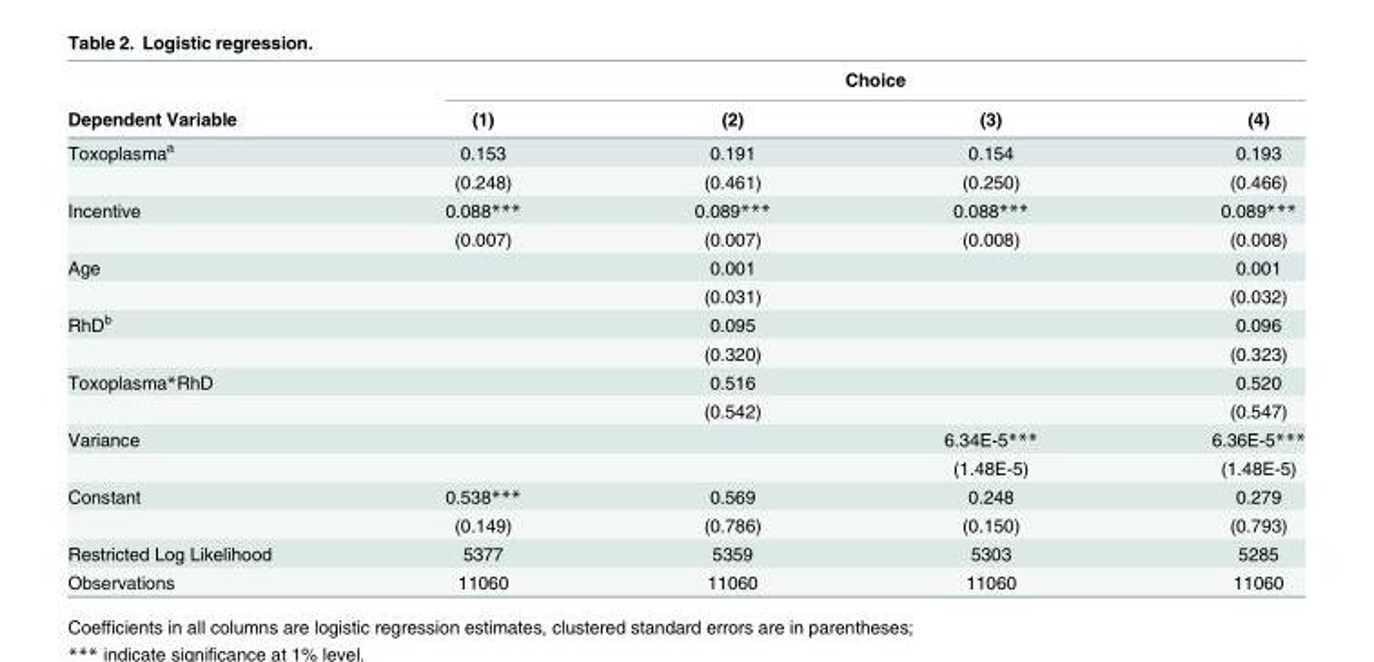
<table><thead><tr><td rowspan="2">Dependent Variable</td><td colspan="4">Choice</td></tr><tr><td>(1)</td><td>(2)</td><td>(3)</td><td>(4)</td></tr></thead><tbody><tr><td rowspan="2">Toxoplasma<sup>a</sup></td><td>0.153</td><td>0.191</td><td>0.154</td><td>0.193</td></tr><tr><td>(0.248)</td><td>(0.461)</td><td>(0.250)</td><td>(0.466)</td></tr><tr><td rowspan="2">Incentive</td><td>0.088***</td><td>0.089***</td><td>0.088***</td><td>0.089***</td></tr><tr><td>(0.007)</td><td>(0.007)</td><td>(0.008)</td><td>(0.008)</td></tr><tr><td rowspan="2">Age</td><td></td><td>0.001</td><td></td><td>0.001</td></tr><tr><td></td><td>(0.031)</td><td></td><td>(0.032)</td></tr><tr><td rowspan="2">RhD<sup>b</sup></td><td></td><td>0.095</td><td></td><td>0.096</td></tr><tr><td></td><td>(0.320)</td><td></td><td>(0.323)</td></tr><tr><td rowspan="2">Toxoplasma*RhD</td><td></td><td>0.516</td><td></td><td>0.520</td></tr><tr><td></td><td>(0.542)</td><td></td><td>(0.547)</td></tr><tr><td rowspan="2">Variance</td><td></td><td></td><td>6.34E-5***</td><td>6.36E-5***</td></tr><tr><td></td><td></td><td>(1.48E-5)</td><td>(1.48E-5)</td></tr><tr><td rowspan="2">Constant</td><td>0.538***</td><td>0.569</td><td>0.248</td><td>0.279</td></tr><tr><td>(0.149)</td><td>(0.786)</td><td>(0.150)</td><td>(0.793)</td></tr><tr><td>Restricted Log Likelihood</td><td>5377</td><td>5359</td><td>5303</td><td>5285</td></tr><tr><td>Observations</td><td>11060</td><td>11060</td><td>11060</td><td>11060</td></tr></tbody></table>